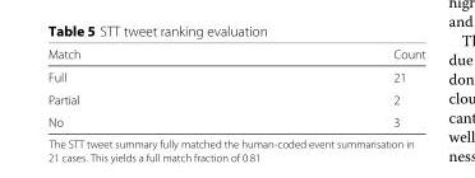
<table><thead><tr><td>Match</td><td>Count</td></tr></thead><tbody><tr><td>Full</td><td>21</td></tr><tr><td>Partial</td><td>2</td></tr><tr><td>No</td><td>3</td></tr></tbody></table>